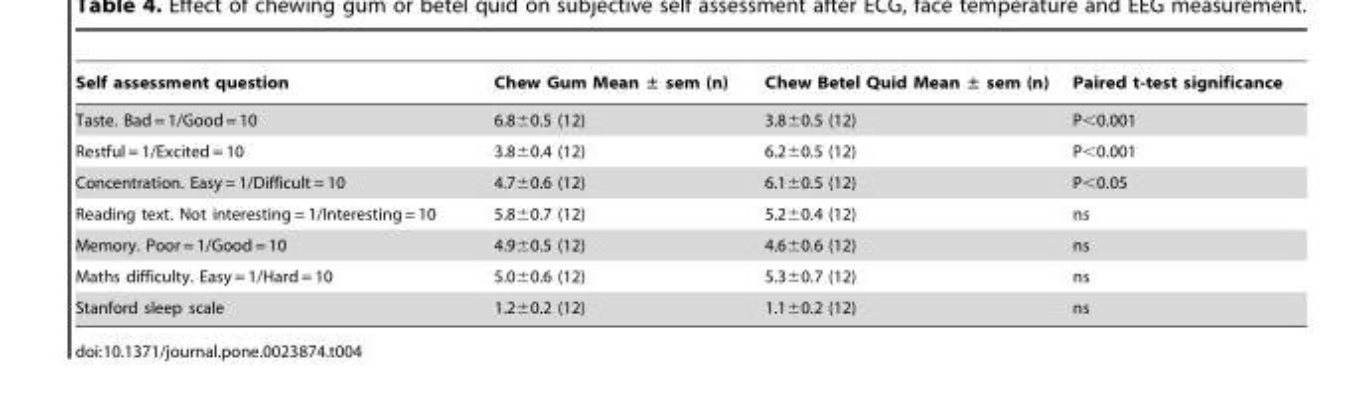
<table><thead><tr><td>Self assessment question</td><td>Chew Gum Mean ± sem (n)</td><td>Chew Betel Quid Mean ± sem (n)</td><td>Paired t-test significance</td></tr></thead><tbody><tr><td>Taste. Bad = 1/Good = 10</td><td>6.8±0.5 (12)</td><td>3.8±0.5 (12)</td><td>P&lt;0.001</td></tr><tr><td>Restful = 1/Excited = 10</td><td>3.8±0.4 (12)</td><td>6.2±0.5 (12)</td><td>P&lt;0.001</td></tr><tr><td>Concentration. Easy = 1/Difficult = 10</td><td>4.7±0.6 (12)</td><td>6.1±0.5 (12)</td><td>P&lt;0.05</td></tr><tr><td>Reading text. Not interesting = 1/Interesting = 10</td><td>5.8±0.7 (12)</td><td>5.2±0.4 (12)</td><td>ns</td></tr><tr><td>Memory. Poor = 1/Good = 10</td><td>4.9±0.5 (12)</td><td>4.6±0.6 (12)</td><td>ns</td></tr><tr><td>Maths difficulty. Easy = 1/Hard = 10</td><td>5.0±0.6 (12)</td><td>5.3±0.7 (12)</td><td>ns</td></tr><tr><td>Stanford sleep scale</td><td>1.2±0.2 (12)</td><td>1.1±0.2 (12)</td><td>ns</td></tr></tbody></table>